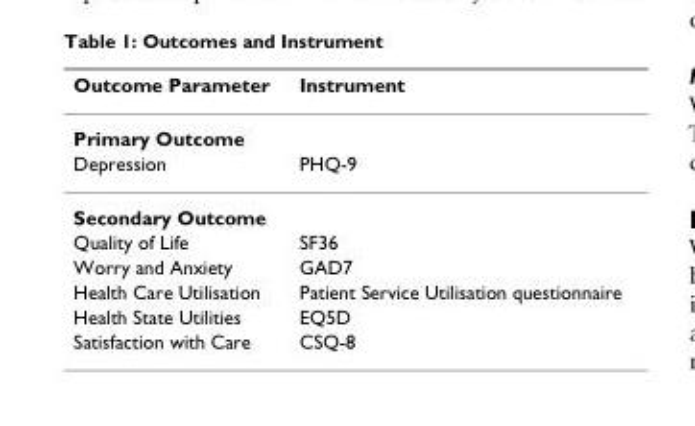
<table><thead><tr><td>Outcome Parameter</td><td>Instrument</td></tr></thead><tbody><tr><td colspan="2">Primary Outcome</td></tr><tr><td>Depression</td><td>PHQ-9</td></tr><tr><td colspan="2">Secondary Outcome</td></tr><tr><td>Quality of Life</td><td>SF36</td></tr><tr><td>Worry and Anxiety</td><td>GAD7</td></tr><tr><td>Health Care Utilisation</td><td>Patient Service Utilisation questionnaire</td></tr><tr><td>Health State Utilities</td><td>EQ5D</td></tr><tr><td>Satisfaction with Care</td><td>CSQ-8</td></tr></tbody></table>